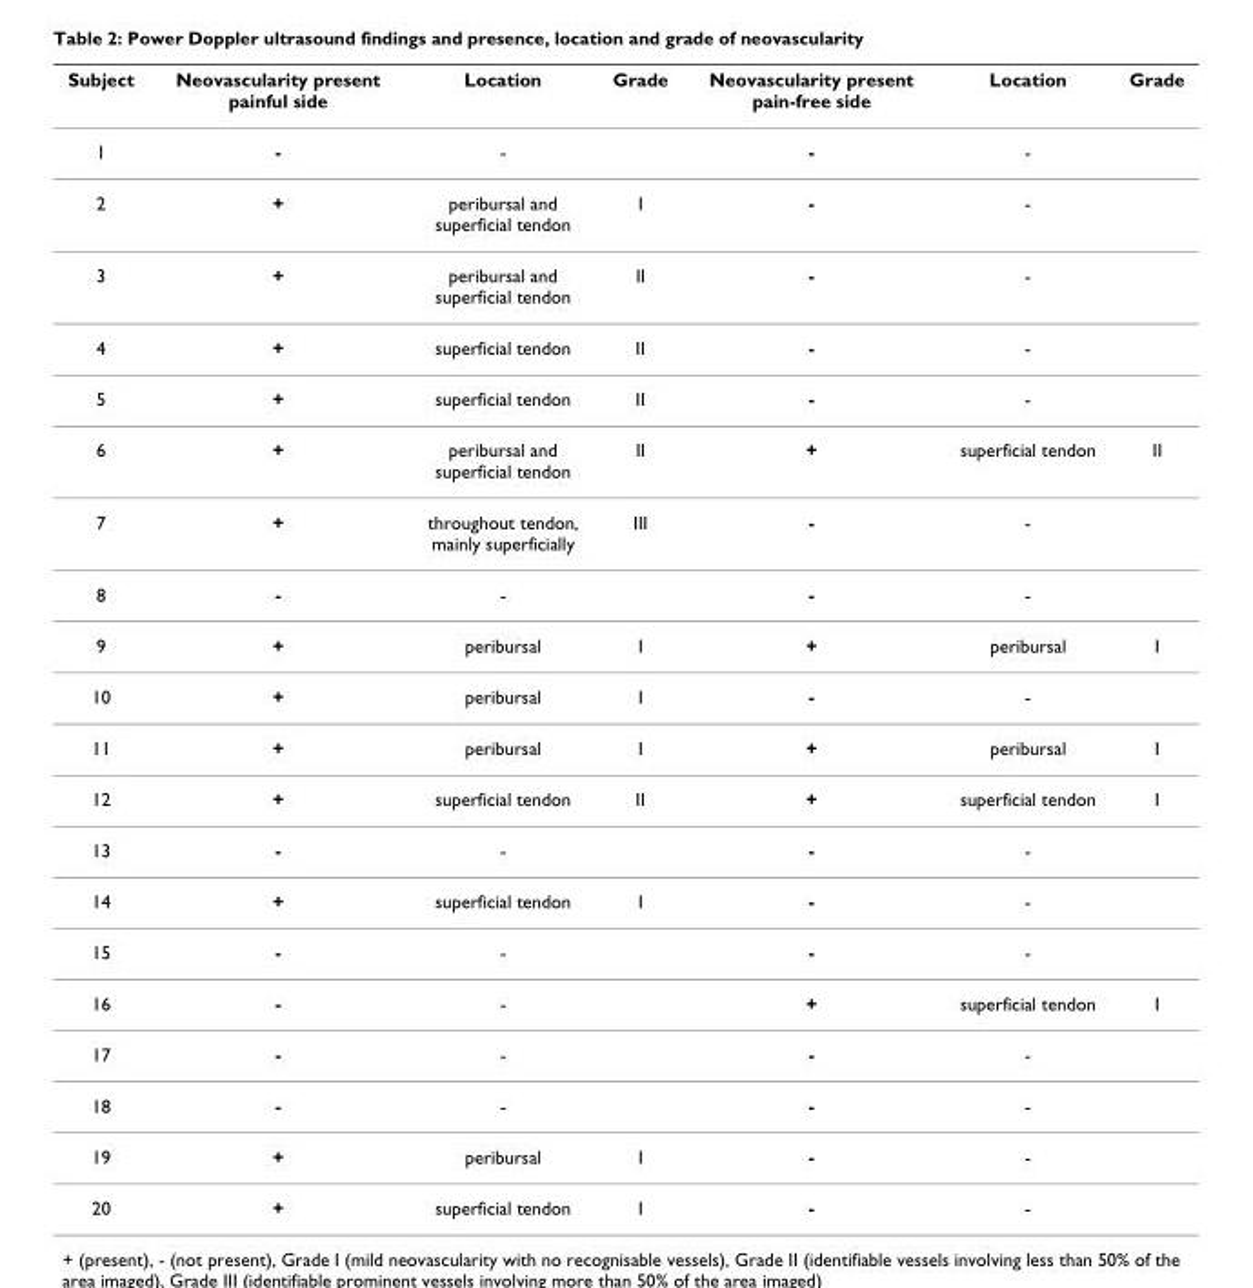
<table><thead><tr><td>Subject</td><td>Neovascularity present painful side</td><td>Location</td><td>Grade</td><td>Neovascularity present pain-free side</td><td>Location</td><td>Grade</td></tr></thead><tbody><tr><td>1</td><td>-</td><td>-</td><td></td><td>-</td><td>-</td><td></td></tr><tr><td>2</td><td>+</td><td>peribursal and superficial tendon</td><td>I</td><td>-</td><td>-</td><td></td></tr><tr><td>3</td><td>+</td><td>peribursal and superficial tendon</td><td>II</td><td>-</td><td>-</td><td></td></tr><tr><td>4</td><td>+</td><td>superficial tendon</td><td>II</td><td>-</td><td>-</td><td></td></tr><tr><td>5</td><td>+</td><td>superficial tendon</td><td>II</td><td>-</td><td>-</td><td></td></tr><tr><td>6</td><td>+</td><td>peribursal and superficial tendon</td><td>II</td><td>+</td><td>superficial tendon</td><td>II</td></tr><tr><td>7</td><td>+</td><td>throughout tendon, mainly superficially</td><td>III</td><td>-</td><td>-</td><td></td></tr><tr><td>8</td><td>-</td><td>-</td><td></td><td>-</td><td>-</td><td></td></tr><tr><td>9</td><td>+</td><td>peribursal</td><td>I</td><td>+</td><td>peribursal</td><td>I</td></tr><tr><td>10</td><td>+</td><td>peribursal</td><td>I</td><td>-</td><td>-</td><td></td></tr><tr><td>11</td><td>+</td><td>peribursal</td><td>I</td><td>+</td><td>peribursal</td><td>I</td></tr><tr><td>12</td><td>+</td><td>superficial tendon</td><td>II</td><td>+</td><td>superficial tendon</td><td>I</td></tr><tr><td>13</td><td>-</td><td>-</td><td></td><td>-</td><td>-</td><td></td></tr><tr><td>14</td><td>+</td><td>superficial tendon</td><td>I</td><td>-</td><td>-</td><td></td></tr><tr><td>15</td><td>-</td><td>-</td><td></td><td>-</td><td>-</td><td></td></tr><tr><td>16</td><td>-</td><td>-</td><td></td><td>+</td><td>superficial tendon</td><td>I</td></tr><tr><td>17</td><td>-</td><td>-</td><td></td><td>-</td><td>-</td><td></td></tr><tr><td>18</td><td>-</td><td>-</td><td></td><td>-</td><td>-</td><td></td></tr><tr><td>19</td><td>+</td><td>peribursal</td><td>I</td><td>-</td><td>-</td><td></td></tr><tr><td>20</td><td>+</td><td>superficial tendon</td><td>I</td><td>-</td><td>-</td><td></td></tr></tbody></table>